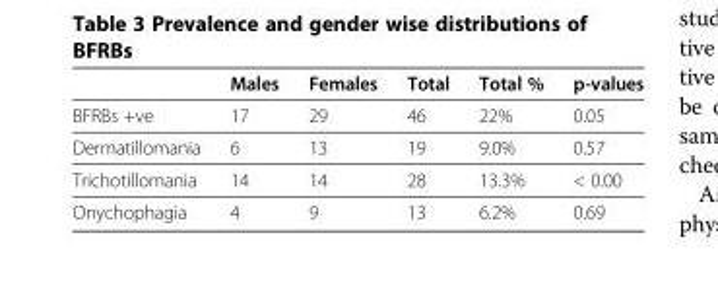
<table><thead><tr><td></td><td>Males</td><td>Females</td><td>Total</td><td>Total %</td><td>p-values</td></tr></thead><tbody><tr><td>BFRBs +ve</td><td>17</td><td>29</td><td>46</td><td>22%</td><td>0.05</td></tr><tr><td>Dermatillomania</td><td>6</td><td>13</td><td>19</td><td>9.0%</td><td>0.57</td></tr><tr><td>Trichotillomania</td><td>14</td><td>14</td><td>28</td><td>13.3%</td><td>&lt; 0.00</td></tr><tr><td>Onychophagia</td><td>4</td><td>9</td><td>13</td><td>6.2%</td><td>0.69</td></tr></tbody></table>